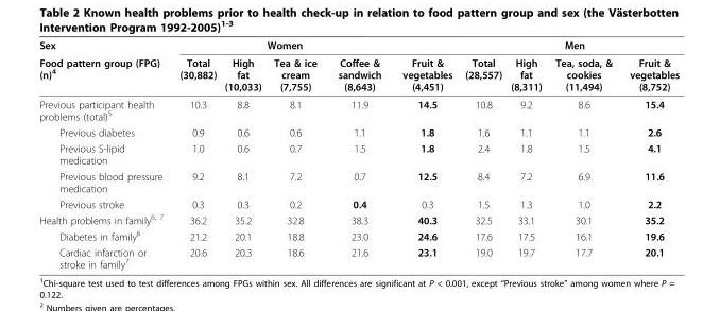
<table><thead><tr><td rowspan="2">Sex Food pattern group (FPG) (n)<sup>4</sup></td><td colspan="4">Women</td><td rowspan="2">Fruit &amp; vegetables (4,451)</td><td colspan="4">Men</td></tr><tr><td>Total (30,882)</td><td>High fat (10,033)</td><td>Tea &amp; ice cream (7,755)</td><td>Coffee &amp; sandwich (8,643)</td><td>Total (28,557)</td><td>High fat (8,311)</td><td>Tea, soda, &amp; cookies (11,494)</td><td>Fruit &amp; vegetables (8,752)</td></tr></thead><tbody><tr><td>Previous participant health problems (total)<sup>5</sup></td><td>10.3</td><td>8.8</td><td>8.1</td><td>11.9</td><td>14.5</td><td>10.8</td><td>9.2</td><td>8.6</td><td>15.4</td></tr><tr><td>Previous diabetes</td><td>0.9</td><td>0.6</td><td>0.6</td><td>1.1</td><td>1.8</td><td>1.6</td><td>1.1</td><td>1.1</td><td>2.6</td></tr><tr><td>Previous S-lipid medication</td><td>1.0</td><td>0.6</td><td>0.7</td><td>1.5</td><td>1.8</td><td>2.4</td><td>1.8</td><td>1.5</td><td>4.1</td></tr><tr><td>Previous blood pressure medication</td><td>9.2</td><td>8.1</td><td>7.2</td><td>0.7</td><td>12.5</td><td>8.4</td><td>7.2</td><td>6.9</td><td>11.6</td></tr><tr><td>Previous stroke</td><td>0.3</td><td>0.3</td><td>0.2</td><td>0.4</td><td>0.3</td><td>1.5</td><td>1.3</td><td>1.0</td><td>2.2</td></tr><tr><td>Health problems in family<sup>6, 7</sup></td><td>36.2</td><td>35.2</td><td>32.8</td><td>38.3</td><td>40.3</td><td>32.5</td><td>33.1</td><td>30.1</td><td>35.2</td></tr><tr><td>Diabetes in family<sup>6</sup></td><td>21.2</td><td>20.1</td><td>18.8</td><td>23.0</td><td>24.6</td><td>17.6</td><td>17.5</td><td>16.1</td><td>19.6</td></tr><tr><td>Cardiac infarction or stroke in family<sup>7</sup></td><td>20.6</td><td>20.3</td><td>18.6</td><td>21.6</td><td>23.1</td><td>19.0</td><td>19.7</td><td>17.7</td><td>20.1</td></tr></tbody></table>